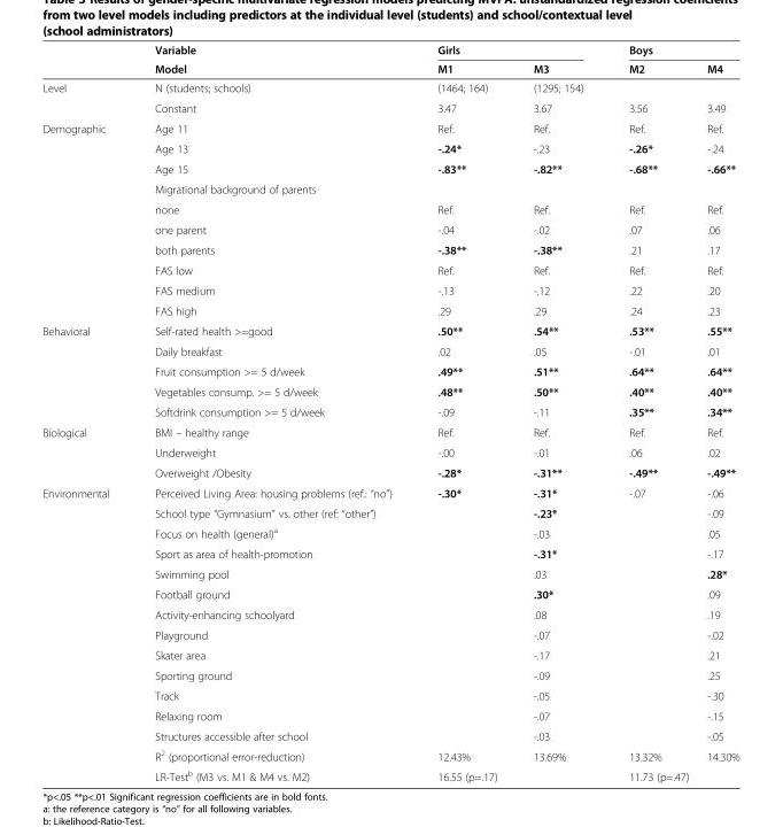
<table><thead><tr><td rowspan="2"></td><td rowspan="2">Variable Model</td><td colspan="2">Girls</td><td colspan="2">Boys</td></tr><tr><td>M1</td><td>M3</td><td>M2</td><td>M4</td></tr></thead><tbody><tr><td rowspan="2">Level</td><td>N (students; schools)</td><td>(1464; 164)</td><td>(1295; 154)</td><td></td><td></td></tr><tr><td>Constant</td><td>3.47</td><td>3.67</td><td>3.56</td><td>3.49</td></tr><tr><td rowspan="10">Demographic</td><td>Age 11</td><td>Ref.</td><td>Ref.</td><td>Ref.</td><td>Ref.</td></tr><tr><td>Age 13</td><td>-.24*</td><td>-.23</td><td>-.26*</td><td>-.24</td></tr><tr><td>Age 15</td><td>-.83**</td><td>-.82**</td><td>-.68**</td><td>-.66**</td></tr><tr><td>Migrational background of parents</td><td></td><td></td><td></td><td></td></tr><tr><td>none</td><td>Ref.</td><td>Ref.</td><td>Ref.</td><td>Ref.</td></tr><tr><td>one parent</td><td>-.04</td><td>-.02</td><td>.07</td><td>.06</td></tr><tr><td>both parents</td><td>-.38**</td><td>-.38**</td><td>.21</td><td>.17</td></tr><tr><td>FAS low</td><td>Ref.</td><td>Ref.</td><td>Ref.</td><td>Ref.</td></tr><tr><td>FAS medium</td><td>-.13</td><td>-.12</td><td>.22</td><td>.20</td></tr><tr><td>FAS high</td><td>.29</td><td>.29</td><td>.24</td><td>.23</td></tr><tr><td rowspan="5">Behavioral</td><td>Self-rated health &gt;=good</td><td>.50**</td><td>.54**</td><td>.53**</td><td>.55**</td></tr><tr><td>Daily breakfast</td><td>.02</td><td>.05</td><td>-.01</td><td>.01</td></tr><tr><td>Fruit consumption &gt;= 5 d/week</td><td>.49**</td><td>.51**</td><td>.64**</td><td>.64**</td></tr><tr><td>Vegetables consump. &gt;= 5 d/week</td><td>.48**</td><td>.50**</td><td>.40**</td><td>.40**</td></tr><tr><td>Softdrink consumption &gt;= 5 d/week</td><td>-.09</td><td>-.11</td><td>.35**</td><td>.34**</td></tr><tr><td rowspan="3">Biological</td><td>BMI – healthy range</td><td>Ref.</td><td>Ref.</td><td>Ref.</td><td>Ref.</td></tr><tr><td>Underweight</td><td>-.00</td><td>-.01</td><td>.06</td><td>.02</td></tr><tr><td>Overweight /Obesity</td><td>-.28*</td><td>-.31**</td><td>-.49**</td><td>-.49**</td></tr><tr><td rowspan="15">Environmental</td><td>Perceived Living Area: housing problems (ref.: “no”)</td><td>-.30*</td><td>-.31*</td><td>-.07</td><td>-.06</td></tr><tr><td>School type “Gymnasium” vs. other (ref: “other”)</td><td></td><td>-.23*</td><td></td><td>-.09</td></tr><tr><td>Focus on health (general)<sup>a</sup></td><td></td><td>-.03</td><td></td><td>.05</td></tr><tr><td>Sport as area of health-promotion</td><td></td><td>-.31*</td><td></td><td>-.17</td></tr><tr><td>Swimming pool</td><td></td><td>.03</td><td></td><td>.28*</td></tr><tr><td>Football ground</td><td></td><td>.30*</td><td></td><td>.09</td></tr><tr><td>Activity-enhancing schoolyard</td><td></td><td>.08</td><td></td><td>.19</td></tr><tr><td>Playground</td><td></td><td>-.07</td><td></td><td>-.02</td></tr><tr><td>Skater area</td><td></td><td>-.17</td><td></td><td>.21</td></tr><tr><td>Sporting ground</td><td></td><td>-.09</td><td></td><td>.25</td></tr><tr><td>Track</td><td></td><td>-.05</td><td></td><td>-.30</td></tr><tr><td>Relaxing room</td><td></td><td>-.07</td><td></td><td>-.15</td></tr><tr><td>Structures accessible after school</td><td></td><td>-.03</td><td></td><td>-.05</td></tr><tr><td>R<sup>2</sup> (proportional error-reduction)</td><td>12.43%</td><td>13.69%</td><td>13.32%</td><td>14.30%</td></tr><tr><td>LR-Test<sup>b</sup> (M3 vs. M1 &amp; M4 vs. M2)</td><td colspan="2">16.55 (p=.17)</td><td colspan="2">11.73 (p=.47)</td></tr></tbody></table>